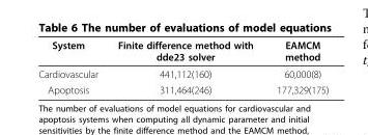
<table><thead><tr><td>System</td><td>Finite difference method with dde23 solver</td><td>EAMCM method</td></tr></thead><tbody><tr><td>Cardiovascular</td><td>441,112(160)</td><td>60,000(8)</td></tr><tr><td>Apoptosis</td><td>311,464(246)</td><td>177,329(175)</td></tr></tbody></table>